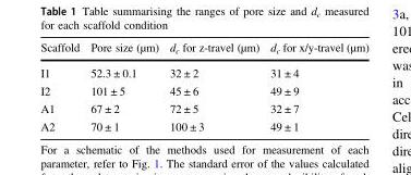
<table><thead><tr><td>Scaffold</td><td>Pore size (μm)</td><td>d<sub>c</sub> for z-travel (μm)</td><td>d<sub>c</sub> for x/y-travel (μm)</td></tr></thead><tbody><tr><td>I1</td><td>52.3 ± 0.1</td><td>32 ± 2</td><td>31 ± 4</td></tr><tr><td>I2</td><td>101 ± 5</td><td>45 ± 6</td><td>49 ± 9</td></tr><tr><td>A1</td><td>67 ± 2</td><td>72 ± 5</td><td>32 ± 7</td></tr><tr><td>A2</td><td>70 ± 1</td><td>100 ± 3</td><td>49 ± 1</td></tr></tbody></table>